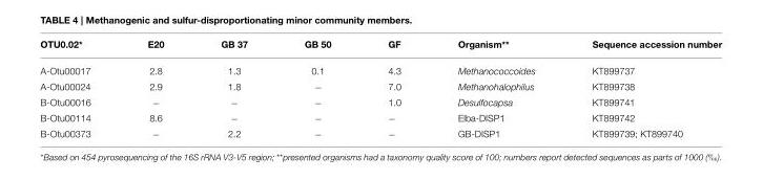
<table><thead><tr><td>OTU0.02*</td><td>E20</td><td>GB 37</td><td>GB 50</td><td>GF</td><td>Organism**</td><td>Sequence accession number</td></tr></thead><tbody><tr><td>A-Otu00017</td><td>2.8</td><td>1.3</td><td>0.1</td><td>4.3</td><td>Methanococcoides</td><td>KT899737</td></tr><tr><td>A-Otu00024</td><td>2.9</td><td>1.8</td><td>−</td><td>7.0</td><td>Methanohalophilus</td><td>KT899738</td></tr><tr><td>B-Otu00016</td><td>−</td><td>−</td><td>−</td><td>1.0</td><td>Desulfocapsa</td><td>KT899741</td></tr><tr><td>B-Otu00114</td><td>8.6</td><td>−</td><td>−</td><td>−</td><td>Elba-DISP1</td><td>KT899742</td></tr><tr><td>B-Otu00373</td><td>−</td><td>2.2</td><td>−</td><td>−</td><td>GB-DISP1</td><td>KT899739; KT899740</td></tr></tbody></table>